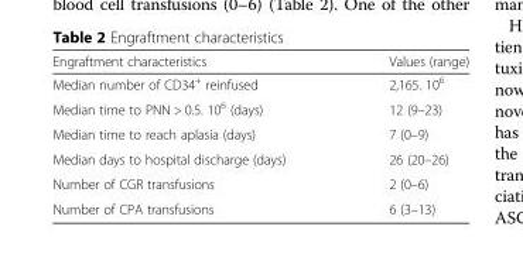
<table><thead><tr><td>Engraftment characteristics</td><td>Values (range)</td></tr></thead><tbody><tr><td>Median number of CD34<sup>+</sup> reinfused</td><td>2,165. 10<sup>6</sup></td></tr><tr><td>Median time to PNN &gt; 0.5. 10<sup>6</sup> (days)</td><td>12 (9–23)</td></tr><tr><td>Median time to reach aplasia (days)</td><td>7 (0–9)</td></tr><tr><td>Median days to hospital discharge (days)</td><td>26 (20–26)</td></tr><tr><td>Number of CGR transfusions</td><td>2 (0–6)</td></tr><tr><td>Number of CPA transfusions</td><td>6 (3–13)</td></tr></tbody></table>